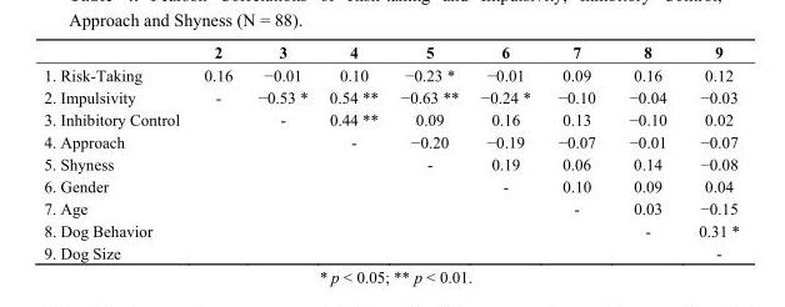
<table><thead><tr><td></td><td>2</td><td>3</td><td>4</td><td>5</td><td>6</td><td>7</td><td>8</td><td>9</td></tr></thead><tbody><tr><td>1. Risk-Taking</td><td>0.16</td><td>−0.01</td><td>0.10</td><td>−0.23 *</td><td>−0.01</td><td>0.09</td><td>0.16</td><td>0.12</td></tr><tr><td>2. Impulsivity</td><td>-</td><td>−0.53 *</td><td>0.54 **</td><td>−0.63 **</td><td>−0.24 *</td><td>−0.10</td><td>−0.04</td><td>−0.03</td></tr><tr><td>3. Inhibitory Control</td><td></td><td>-</td><td>0.44 **</td><td>0.09</td><td>0.16</td><td>0.13</td><td>−0.10</td><td>0.02</td></tr><tr><td>4. Approach</td><td></td><td></td><td>-</td><td>−0.20</td><td>−0.19</td><td>−0.07</td><td>−0.01</td><td>−0.07</td></tr><tr><td>5. Shyness</td><td></td><td></td><td></td><td>-</td><td>0.19</td><td>0.06</td><td>0.14</td><td>−0.08</td></tr><tr><td>6. Gender</td><td></td><td></td><td></td><td></td><td>-</td><td>0.10</td><td>0.09</td><td>0.04</td></tr><tr><td>7. Age</td><td></td><td></td><td></td><td></td><td></td><td>-</td><td>0.03</td><td>−0.15</td></tr><tr><td>8. Dog Behavior</td><td></td><td></td><td></td><td></td><td></td><td></td><td>-</td><td>0.31 *</td></tr><tr><td>9. Dog Size</td><td></td><td></td><td></td><td></td><td></td><td></td><td></td><td>-</td></tr></tbody></table>